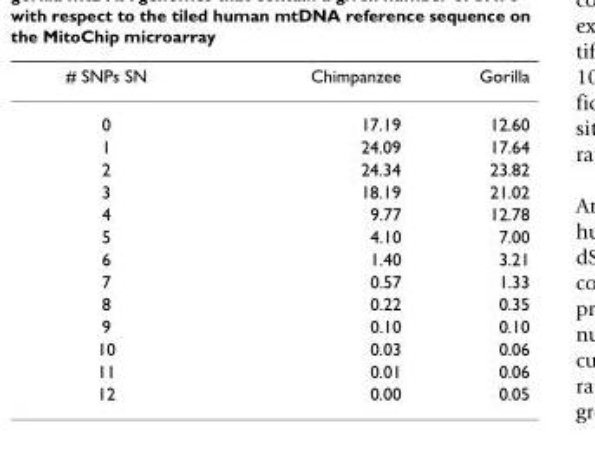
<table><thead><tr><td># SNPs SN</td><td>Chimpanzee</td><td>Gorilla</td></tr></thead><tbody><tr><td>0</td><td>17.19</td><td>12.60</td></tr><tr><td>1</td><td>24.09</td><td>17.64</td></tr><tr><td>2</td><td>24.34</td><td>23.82</td></tr><tr><td>3</td><td>18.19</td><td>21.02</td></tr><tr><td>4</td><td>9.77</td><td>12.78</td></tr><tr><td>5</td><td>4.10</td><td>7.00</td></tr><tr><td>6</td><td>1.40</td><td>3.21</td></tr><tr><td>7</td><td>0.57</td><td>1.33</td></tr><tr><td>8</td><td>0.22</td><td>0.35</td></tr><tr><td>9</td><td>0.10</td><td>0.10</td></tr><tr><td>10</td><td>0.03</td><td>0.06</td></tr><tr><td>11</td><td>0.01</td><td>0.06</td></tr><tr><td>12</td><td>0.00</td><td>0.05</td></tr></tbody></table>